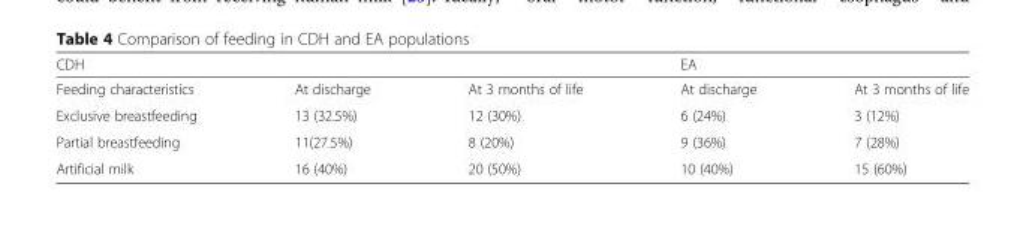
<table><thead><tr><td colspan="3">CDH</td><td colspan="2">EA</td></tr><tr><td>Feeding characteristics</td><td>At discharge</td><td>At 3 months of life</td><td>At discharge</td><td>At 3 months of life</td></tr></thead><tbody><tr><td>Exclusive breastfeeding</td><td>13 (32.5%)</td><td>12 (30%)</td><td>6 (24%)</td><td>3 (12%)</td></tr><tr><td>Partial breastfeeding</td><td>11(27.5%)</td><td>8 (20%)</td><td>9 (36%)</td><td>7 (28%)</td></tr><tr><td>Artificial milk</td><td>16 (40%)</td><td>20 (50%)</td><td>10 (40%)</td><td>15 (60%)</td></tr></tbody></table>